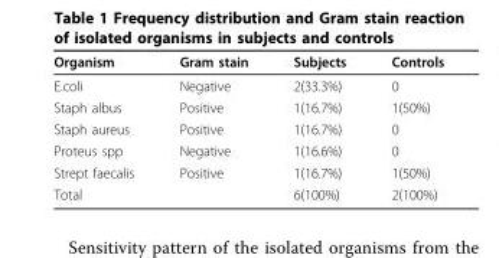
<table><thead><tr><td>Organism</td><td>Gram stain</td><td>Subjects</td><td>Controls</td></tr></thead><tbody><tr><td>E.coli</td><td>Negative</td><td>2(33.3%)</td><td>0</td></tr><tr><td>Staph albus</td><td>Positive</td><td>1(16.7%)</td><td>1(50%)</td></tr><tr><td>Staph aureus</td><td>Positive</td><td>1(16.7%)</td><td>0</td></tr><tr><td>Proteus spp</td><td>Negative</td><td>1(16.6%)</td><td>0</td></tr><tr><td>Strept faecalis</td><td>Positive</td><td>1(16.7%)</td><td>1(50%)</td></tr><tr><td>Total</td><td></td><td>6(100%)</td><td>2(100%)</td></tr></tbody></table>